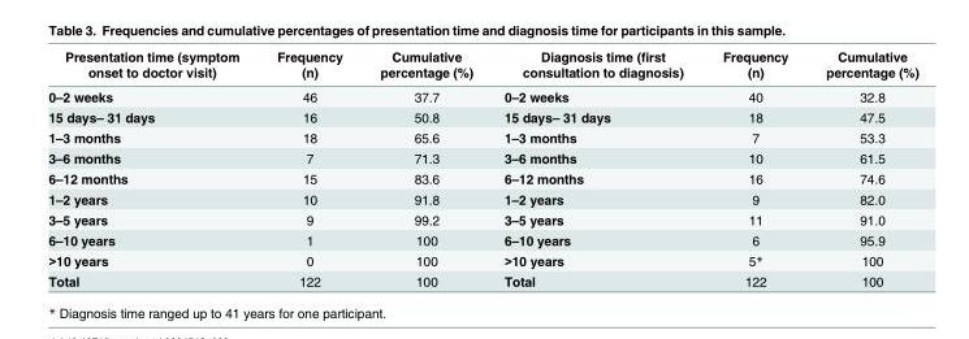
<table><thead><tr><td>Presentation time (symptom onset to doctor visit)</td><td>Frequency (n)</td><td>Cumulative percentage (%)</td><td>Diagnosis time (first consultation to diagnosis)</td><td>Frequency (n)</td><td>Cumulative percentage (%)</td></tr></thead><tbody><tr><td>0–2 weeks</td><td>46</td><td>37.7</td><td>0–2 weeks</td><td>40</td><td>32.8</td></tr><tr><td>15 days– 31 days</td><td>16</td><td>50.8</td><td>15 days– 31 days</td><td>18</td><td>47.5</td></tr><tr><td>1–3 months</td><td>18</td><td>65.6</td><td>1–3 months</td><td>7</td><td>53.3</td></tr><tr><td>3–6 months</td><td>7</td><td>71.3</td><td>3–6 months</td><td>10</td><td>61.5</td></tr><tr><td>6–12 months</td><td>15</td><td>83.6</td><td>6–12 months</td><td>16</td><td>74.6</td></tr><tr><td>1–2 years</td><td>10</td><td>91.8</td><td>1–2 years</td><td>9</td><td>82.0</td></tr><tr><td>3–5 years</td><td>9</td><td>99.2</td><td>3–5 years</td><td>11</td><td>91.0</td></tr><tr><td>6–10 years</td><td>1</td><td>100</td><td>6–10 years</td><td>6</td><td>95.9</td></tr><tr><td>&gt;10 years</td><td>0</td><td>100</td><td>&gt;10 years</td><td>5*</td><td>100</td></tr><tr><td>Total</td><td>122</td><td>100</td><td>Total</td><td>122</td><td>100</td></tr></tbody></table>